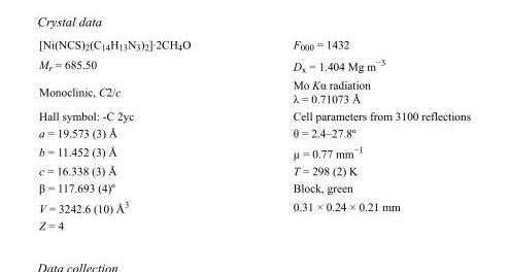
<table><tbody><tr><td>[Ni(NCS)<sub>2</sub>(C<sub>14</sub>H<sub>13</sub>N<sub>3</sub>)<sub>2</sub>]·2CH<sub>4</sub>O</td><td>F<sub>000</sub> = 1432</td></tr><tr><td>M<sub>r</sub> = 685.50</td><td>D<sub>x</sub> = 1.404 Mg m<sup>−3</sup></td></tr><tr><td>Monoclinic, C2/c</td><td>Mo Kα radiation λ = 0.71073 Å</td></tr><tr><td>Hall symbol: -C 2yc</td><td>Cell parameters from 3100 reflections</td></tr><tr><td>a = 19.573 (3) Å</td><td>θ = 2.4–27.8º</td></tr><tr><td>b = 11.452 (3) Å</td><td>µ = 0.77 mm<sup>−1</sup></td></tr><tr><td>c = 16.338 (3) Å</td><td>T = 298 (2) K</td></tr><tr><td>β = 117.693 (4)º</td><td>Block, green</td></tr><tr><td>V = 3242.6 (10) Å<sup>3</sup></td><td>0.31 × 0.24 × 0.21 mm</td></tr><tr><td>Z = 4</td><td></td></tr></tbody></table>